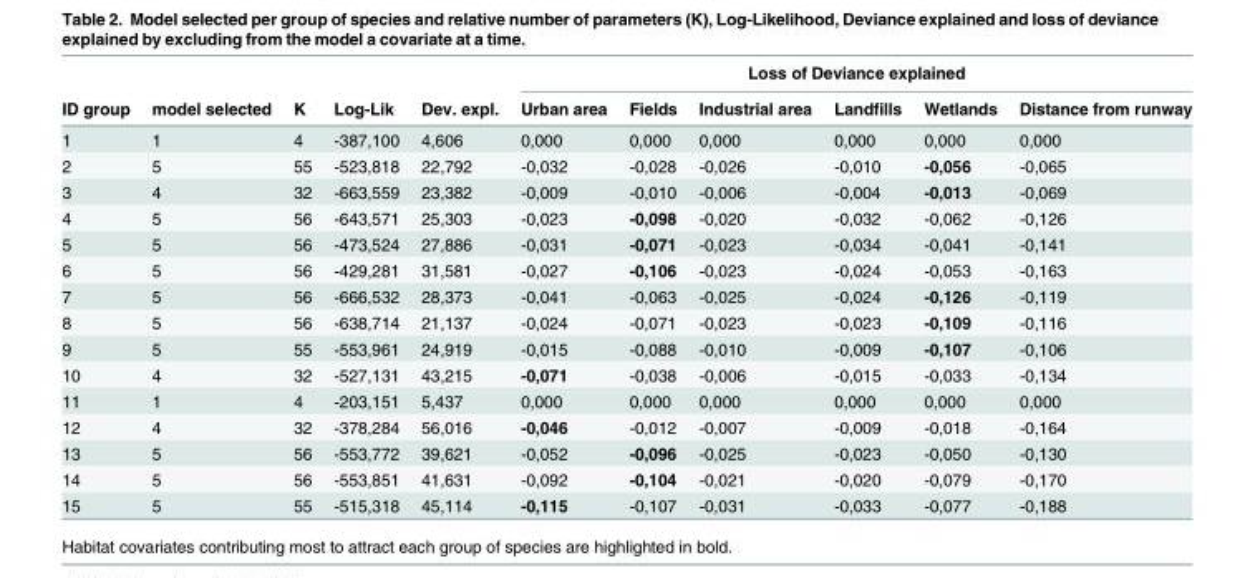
<table><thead><tr><td rowspan="2">ID group</td><td rowspan="2">model selected</td><td rowspan="2">K</td><td rowspan="2">Log-Lik</td><td rowspan="2">Dev. expl.</td><td colspan="6">Loss of Deviance explained</td></tr><tr><td>Urban area</td><td>Fields</td><td>Industrial area</td><td>Landfills</td><td>Wetlands</td><td>Distance from runway</td></tr></thead><tbody><tr><td>1</td><td>1</td><td>4</td><td>-387,100</td><td>4,606</td><td>0,000</td><td>0,000</td><td>0,000</td><td>0,000</td><td>0,000</td><td>0,000</td></tr><tr><td>2</td><td>5</td><td>55</td><td>-523,818</td><td>22,792</td><td>-0,032</td><td>-0,028</td><td>-0,026</td><td>-0,010</td><td>-0,056</td><td>-0,065</td></tr><tr><td>3</td><td>4</td><td>32</td><td>-663,559</td><td>23,382</td><td>-0,009</td><td>-0,010</td><td>-0,006</td><td>-0,004</td><td>-0,013</td><td>-0,069</td></tr><tr><td>4</td><td>5</td><td>56</td><td>-643,571</td><td>25,303</td><td>-0,023</td><td>-0,098</td><td>-0,020</td><td>-0,032</td><td>-0,062</td><td>-0,126</td></tr><tr><td>5</td><td>5</td><td>56</td><td>-473,524</td><td>27,886</td><td>-0,031</td><td>-0,071</td><td>-0,023</td><td>-0,034</td><td>-0,041</td><td>-0,141</td></tr><tr><td>6</td><td>5</td><td>56</td><td>-429,281</td><td>31,581</td><td>-0,027</td><td>-0,106</td><td>-0,023</td><td>-0,024</td><td>-0,053</td><td>-0,163</td></tr><tr><td>7</td><td>5</td><td>56</td><td>-666,532</td><td>28,373</td><td>-0,041</td><td>-0,063</td><td>-0,025</td><td>-0,024</td><td>-0,126</td><td>-0,119</td></tr><tr><td>8</td><td>5</td><td>56</td><td>-638,714</td><td>21,137</td><td>-0,024</td><td>-0,071</td><td>-0,023</td><td>-0,023</td><td>-0,109</td><td>-0,116</td></tr><tr><td>9</td><td>5</td><td>55</td><td>-553,961</td><td>24,919</td><td>-0,015</td><td>-0,088</td><td>-0,010</td><td>-0,009</td><td>-0,107</td><td>-0,106</td></tr><tr><td>10</td><td>4</td><td>32</td><td>-527,131</td><td>43,215</td><td>-0,071</td><td>-0,038</td><td>-0,006</td><td>-0,015</td><td>-0,033</td><td>-0,134</td></tr><tr><td>11</td><td>1</td><td>4</td><td>-203,151</td><td>5,437</td><td>0,000</td><td>0,000</td><td>0,000</td><td>0,000</td><td>0,000</td><td>0,000</td></tr><tr><td>12</td><td>4</td><td>32</td><td>-378,284</td><td>56,016</td><td>-0,046</td><td>-0,012</td><td>-0,007</td><td>-0,009</td><td>-0,018</td><td>-0,164</td></tr><tr><td>13</td><td>5</td><td>56</td><td>-553,772</td><td>39,621</td><td>-0,052</td><td>-0,096</td><td>-0,025</td><td>-0,023</td><td>-0,050</td><td>-0,130</td></tr><tr><td>14</td><td>5</td><td>56</td><td>-553,851</td><td>41,631</td><td>-0,092</td><td>-0,104</td><td>-0,021</td><td>-0,020</td><td>-0,079</td><td>-0,170</td></tr><tr><td>15</td><td>5</td><td>55</td><td>-515,318</td><td>45,114</td><td>-0,115</td><td>-0,107</td><td>-0,031</td><td>-0,033</td><td>-0,077</td><td>-0,188</td></tr></tbody></table>